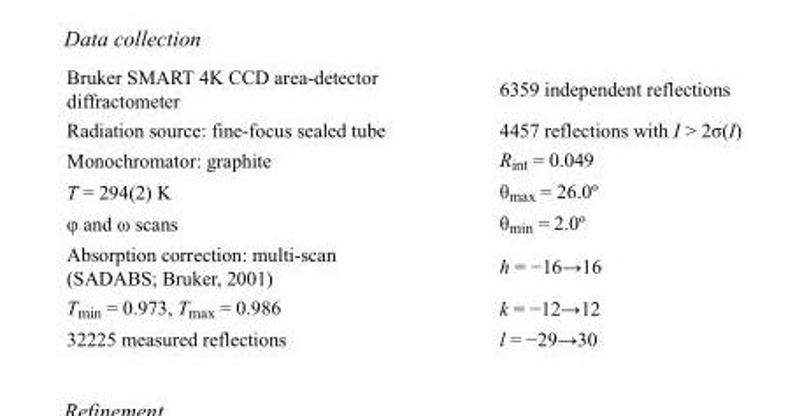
<table><tbody><tr><td>Bruker SMART 4K CCD area-detector diffractometer</td><td>6359 independent reflections</td></tr><tr><td>Radiation source: fine-focus sealed tube</td><td>4457 reflections with I &gt; 2σ(I)</td></tr><tr><td>Monochromator: graphite</td><td>R<sub>int</sub> = 0.049</td></tr><tr><td>T = 294(2) K</td><td>θ<sub>max</sub> = 26.0º</td></tr><tr><td>φ and ω scans</td><td>θ<sub>min</sub> = 2.0º</td></tr><tr><td>Absorption correction: multi-scan (SADABS; Bruker, 2001)</td><td>h = −16→16</td></tr><tr><td>T<sub>min</sub> = 0.973, T<sub>max</sub> = 0.986</td><td>k = −12→12</td></tr><tr><td>32225 measured reflections</td><td>l = −29→30</td></tr></tbody></table>